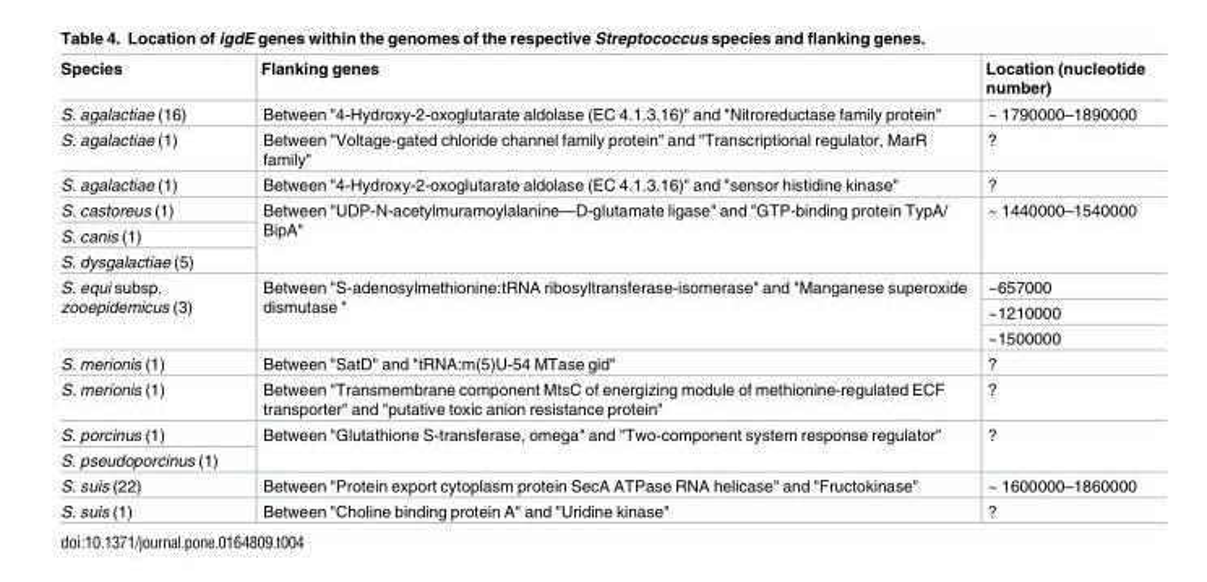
<table><thead><tr><td>Species</td><td>Flanking genes</td><td>Location (nucleotide number)</td></tr></thead><tbody><tr><td>S. agalactiae (16)</td><td>Between &quot;4-Hydroxy-2-oxoglutarate aldolase (EC 4.1.3.16)&quot; and &quot;Nitroreductase family protein&quot;</td><td>~ 1790000–1890000</td></tr><tr><td>S. agalactiae (1)</td><td>Between &quot;Voltage-gated chloride channel family protein&quot; and &quot;Transcriptional regulator, MarR family&quot;</td><td>?</td></tr><tr><td>S. agalactiae (1)</td><td>Between &quot;4-Hydroxy-2-oxoglutarate aldolase (EC 4.1.3.16)&quot; and &quot;sensor histidine kinase&quot;</td><td>?</td></tr><tr><td>S. castoreus (1)</td><td rowspan="3">Between &quot;UDP-N-acetylmuramoylalanine—D-glutamate ligase&quot; and &quot;GTP-binding protein TypA/ BipA&quot;</td><td rowspan="3">~ 1440000–1540000</td></tr><tr><td>S. canis (1)</td></tr><tr><td>S. dysgalactiae (5)</td></tr><tr><td rowspan="3">S. equi subsp. zooepidemicus (3)</td><td rowspan="3">Between &quot;S-adenosylmethionine:tRNA ribosyltransferase-isomerase&quot; and &quot;Manganese superoxide dismutase &quot;</td><td>~657000</td></tr><tr><td>~1210000</td></tr><tr><td>~1500000</td></tr><tr><td>S. merionis (1)</td><td>Between &quot;SatD&quot; and &quot;tRNA:m(5)U-54 MTase gid&quot;</td><td>?</td></tr><tr><td>S. merionis (1)</td><td>Between &quot;Transmembrane component MtsC of energizing module of methionine-regulated ECF transporter&quot; and &quot;putative toxic anion resistance protein&quot;</td><td>?</td></tr><tr><td>S. porcinus (1)</td><td rowspan="2">Between &quot;Glutathione S-transferase, omega&quot; and &quot;Two-component system response regulator&quot;</td><td rowspan="2">?</td></tr><tr><td>S. pseudoporcinus (1)</td></tr><tr><td>S. suis (22)</td><td>Between &quot;Protein export cytoplasm protein SecA ATPase RNA helicase&quot; and &quot;Fructokinase&quot;</td><td>~ 1600000–1860000</td></tr><tr><td>S. suis (1)</td><td>Between &quot;Choline binding protein A&quot; and &quot;Uridine kinase&quot;</td><td>?</td></tr></tbody></table>